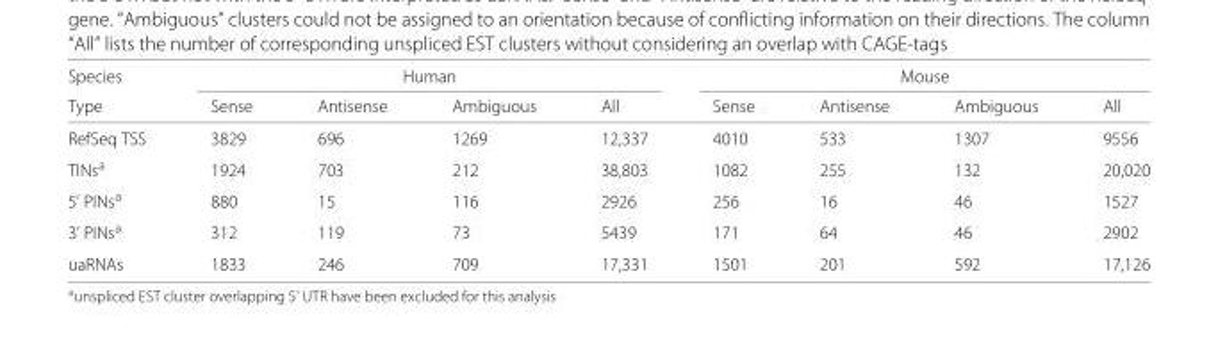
<table><thead><tr><td rowspan="2">Species Type</td><td colspan="4">Human</td><td colspan="4">Mouse</td></tr><tr><td>Sense</td><td>Antisense</td><td>Ambiguous</td><td>All</td><td>Sense</td><td>Antisense</td><td>Ambiguous</td><td>All</td></tr></thead><tbody><tr><td>RefSeq TSS</td><td>3829</td><td>696</td><td>1269</td><td>12,337</td><td>4010</td><td>533</td><td>1307</td><td>9556</td></tr><tr><td>TINs<sup>a</sup></td><td>1924</td><td>703</td><td>212</td><td>38,803</td><td>1082</td><td>255</td><td>132</td><td>20,020</td></tr><tr><td>5’ PINs<sup>a</sup></td><td>880</td><td>15</td><td>116</td><td>2926</td><td>256</td><td>16</td><td>46</td><td>1527</td></tr><tr><td>3’ PINs<sup>a</sup></td><td>312</td><td>119</td><td>73</td><td>5439</td><td>171</td><td>64</td><td>46</td><td>2902</td></tr><tr><td>uaRNAs</td><td>1833</td><td>246</td><td>709</td><td>17,331</td><td>1501</td><td>201</td><td>592</td><td>17,126</td></tr></tbody></table>